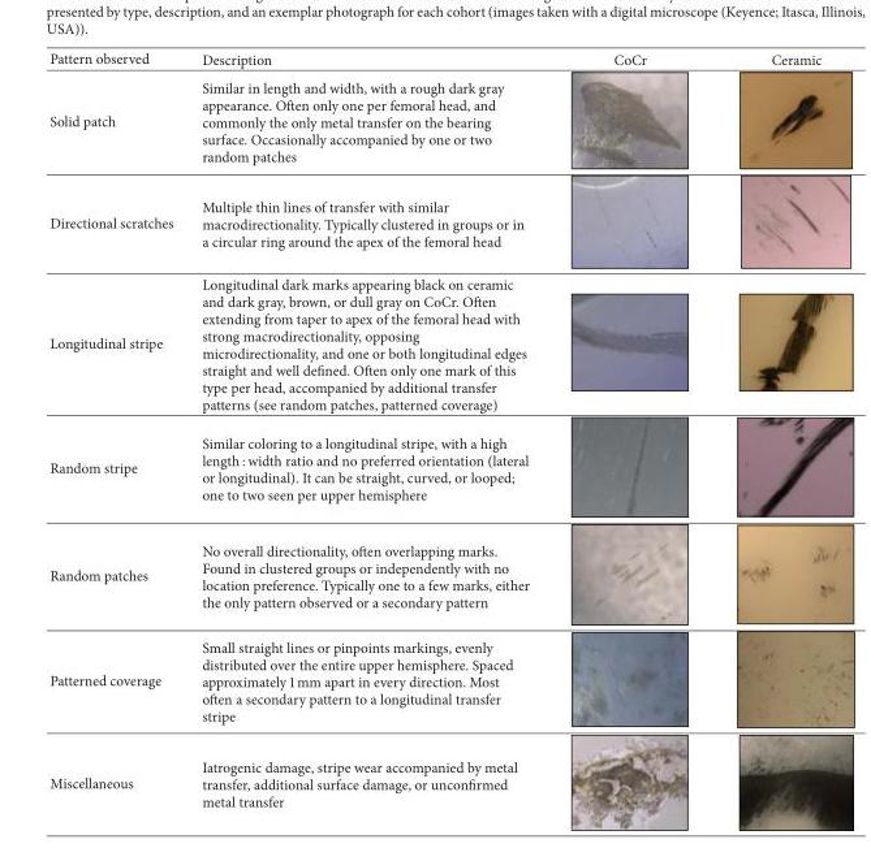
<table><thead><tr><td>Pattern observed</td><td>Description</td><td>CoCr</td><td>Ceramic</td></tr></thead><tbody><tr><td>Solid patch</td><td>Similar in length and width, with a rough dark gray appearance. Often only one per femoral head, and commonly the only metal transfer on the bearing surface. Occasionally accompanied by one or two random patches</td><td></td><td></td></tr><tr><td>Directional scratches</td><td>Multiple thin lines of transfer with similar macrodirectionality. Typically clustered in groups or in a circular ring around the apex of the femoral head</td><td></td><td></td></tr><tr><td>Longitudinal stripe</td><td>Longitudinal dark marks appearing black on ceramic and dark gray, brown, or dull gray on CoCr. Often extending from taper to apex of the femoral head with strong macrodirectionality, opposing microdirectionality, and one or both longitudinal edges straight and well defined. Often only one mark of this type per head, accompanied by additional transfer patterns (see random patches, patterned coverage)</td><td></td><td></td></tr><tr><td>Random stripe</td><td>Similar coloring to a longitudinal stripe, with a high length : width ratio and no preferred orientation (lateral or longitudinal). It can be straight, curved, or looped; one to two seen per upper hemisphere</td><td></td><td></td></tr><tr><td>Random patches</td><td>No overall directionality, often overlapping marks. Found in clustered groups or independently with no location preference. Typically one to a few marks, either the only pattern observed or a secondary pattern</td><td></td><td></td></tr><tr><td>Patterned coverage</td><td>Small straight lines or pinpoints markings, evenly distributed over the entire upper hemisphere. Spaced approximately 1 mm apart in every direction. Most often a secondary pattern to a longitudinal transfer stripe</td><td></td><td></td></tr><tr><td>Miscellaneous</td><td>Iatrogenic damage, stripe wear accompanied by metal transfer, additional surface damage, or unconfirmed metal transfer</td><td></td><td></td></tr></tbody></table>